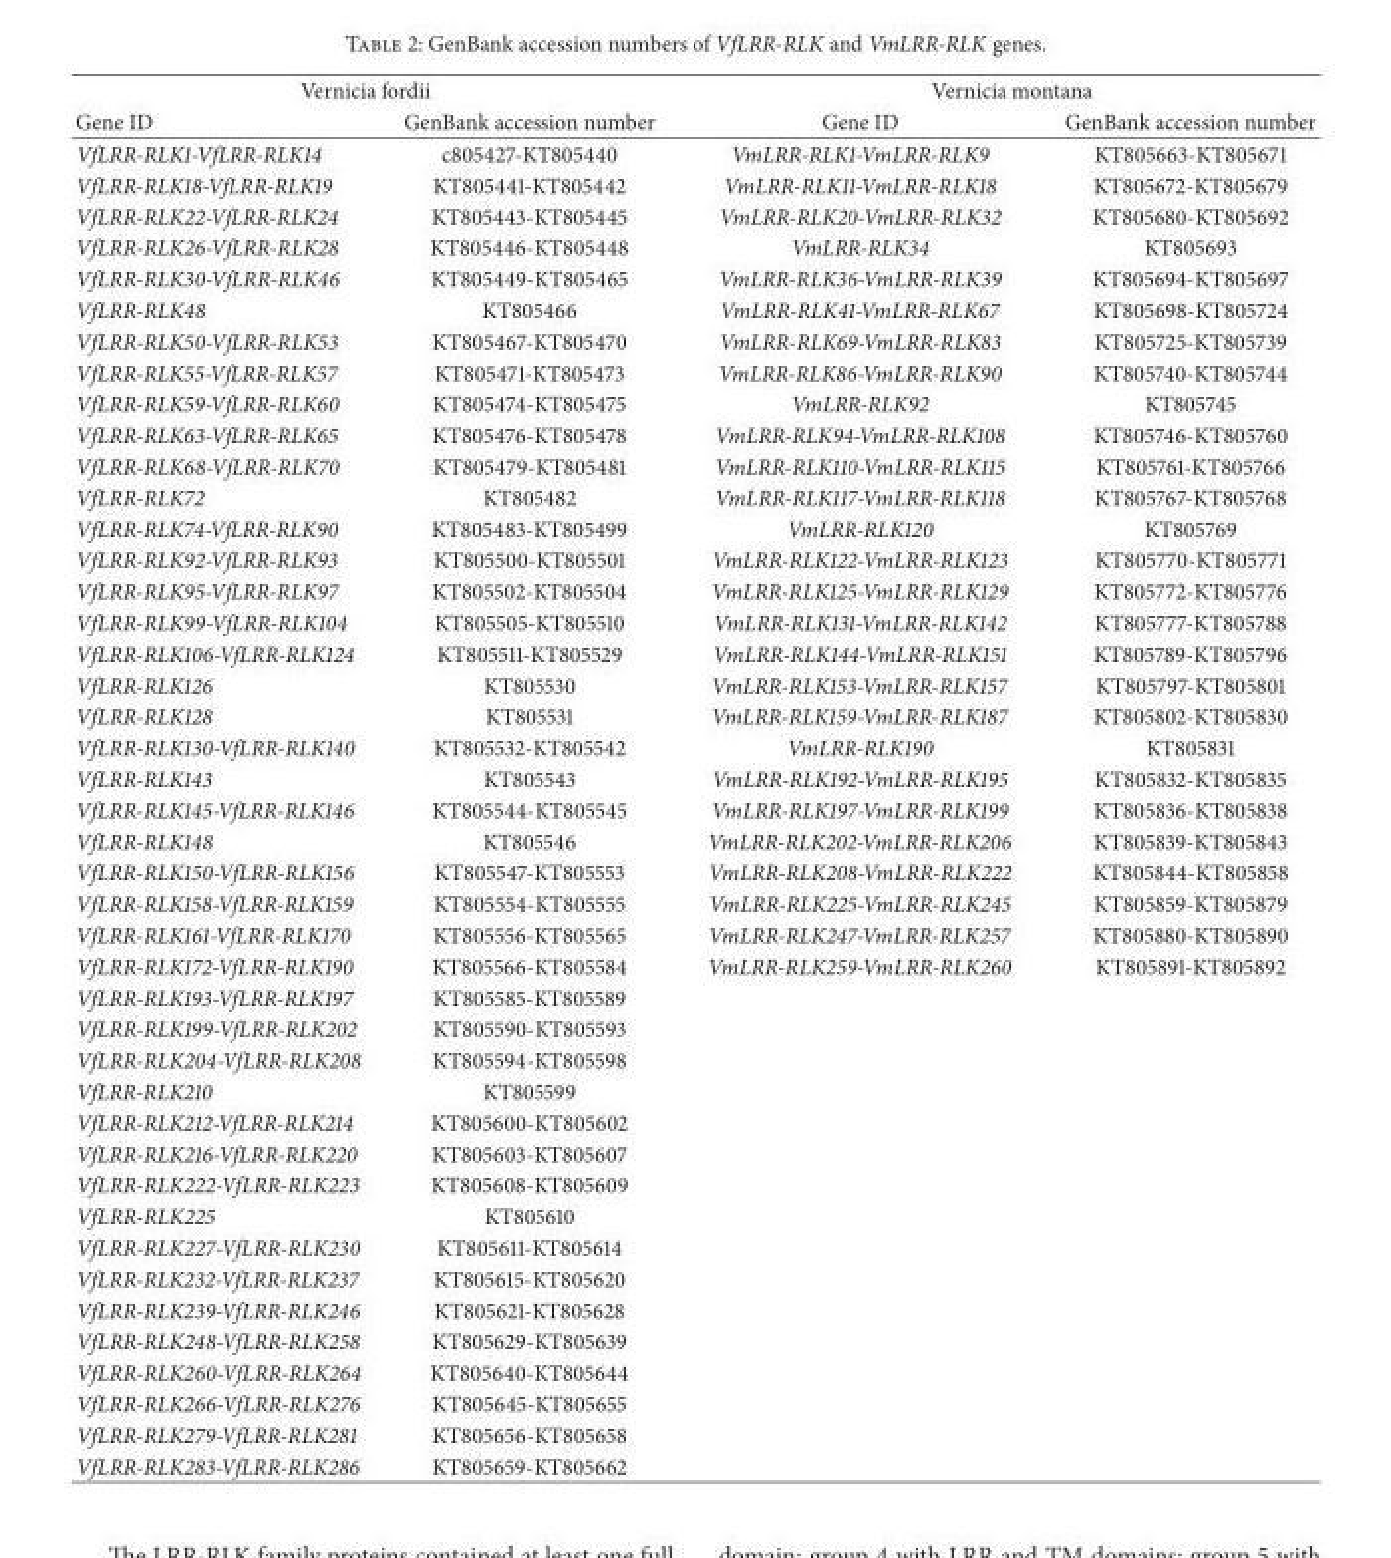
<table><thead><tr><td colspan="2">Vernicia fordii</td><td colspan="2">Vernicia montana</td></tr><tr><td>Gene ID</td><td>GenBank accession number</td><td>Gene ID</td><td>GenBank accession number</td></tr></thead><tbody><tr><td>VfLRR-RLK1-VfLRR-RLK14</td><td>c805427-KT805440</td><td>VmLRR-RLK1-VmLRR-RLK9</td><td>KT805663-KT805671</td></tr><tr><td>VfLRR-RLK18-VfLRR-RLK19</td><td>KT805441-KT805442</td><td>VmLRR-RLK11-VmLRR-RLK18</td><td>KT805672-KT805679</td></tr><tr><td>VfLRR-RLK22-VfLRR-RLK24</td><td>KT805443-KT805445</td><td>VmLRR-RLK20-VmLRR-RLK32</td><td>KT805680-KT805692</td></tr><tr><td>VfLRR-RLK26-VfLRR-RLK28</td><td>KT805446-KT805448</td><td>VmLRR-RLK34</td><td>KT805693</td></tr><tr><td>VfLRR-RLK30-VfLRR-RLK46</td><td>KT805449-KT805465</td><td>VmLRR-RLK36-VmLRR-RLK39</td><td>KT805694-KT805697</td></tr><tr><td>VfLRR-RLK48</td><td>KT805466</td><td>VmLRR-RLK41-VmLRR-RLK67</td><td>KT805698-KT805724</td></tr><tr><td>VfLRR-RLK50-VfLRR-RLK53</td><td>KT805467-KT805470</td><td>VmLRR-RLK69-VmLRR-RLK83</td><td>KT805725-KT805739</td></tr><tr><td>VfLRR-RLK55-VfLRR-RLK57</td><td>KT805471-KT805473</td><td>VmLRR-RLK86-VmLRR-RLK90</td><td>KT805740-KT805744</td></tr><tr><td>VfLRR-RLK59-VfLRR-RLK60</td><td>KT805474-KT805475</td><td>VmLRR-RLK92</td><td>KT805745</td></tr><tr><td>VfLRR-RLK63-VfLRR-RLK65</td><td>KT805476-KT805478</td><td>VmLRR-RLK94-VmLRR-RLK108</td><td>KT805746-KT805760</td></tr><tr><td>VfLRR-RLK68-VfLRR-RLK70</td><td>KT805479-KT805481</td><td>VmLRR-RLK110-VmLRR-RLK115</td><td>KT805761-KT805766</td></tr><tr><td>VfLRR-RLK72</td><td>KT805482</td><td>VmLRR-RLK117-VmLRR-RLK118</td><td>KT805767-KT805768</td></tr><tr><td>VfLRR-RLK74-VfLRR-RLK90</td><td>KT805483-KT805499</td><td>VmLRR-RLK120</td><td>KT805769</td></tr><tr><td>VfLRR-RLK92-VfLRR-RLK93</td><td>KT805500-KT805501</td><td>VmLRR-RLK122-VmLRR-RLK123</td><td>KT805770-KT805771</td></tr><tr><td>VfLRR-RLK95-VfLRR-RLK97</td><td>KT805502-KT805504</td><td>VmLRR-RLK125-VmLRR-RLK129</td><td>KT805772-KT805776</td></tr><tr><td>VfLRR-RLK99-VfLRR-RLK104</td><td>KT805505-KT805510</td><td>VmLRR-RLK131-VmLRR-RLK142</td><td>KT805777-KT805788</td></tr><tr><td>VfLRR-RLK106-VfLRR-RLK124</td><td>KT805511-KT805529</td><td>VmLRR-RLK144-VmLRR-RLK151</td><td>KT805789-KT805796</td></tr><tr><td>VfLRR-RLK126</td><td>KT805530</td><td>VmLRR-RLK153-VmLRR-RLK157</td><td>KT805797-KT805801</td></tr><tr><td>VfLRR-RLK128</td><td>KT805531</td><td>VmLRR-RLK159-VmLRR-RLK187</td><td>KT805802-KT805830</td></tr><tr><td>VfLRR-RLK130-VfLRR-RLK140</td><td>KT805532-KT805542</td><td>VmLRR-RLK190</td><td>KT805831</td></tr><tr><td>VfLRR-RLK143</td><td>KT805543</td><td>VmLRR-RLK192-VmLRR-RLK195</td><td>KT805832-KT805835</td></tr><tr><td>VfLRR-RLK145-VfLRR-RLK146</td><td>KT805544-KT805545</td><td>VmLRR-RLK197-VmLRR-RLK199</td><td>KT805836-KT805838</td></tr><tr><td>VfLRR-RLK148</td><td>KT805546</td><td>VmLRR-RLK202-VmLRR-RLK206</td><td>KT805839-KT805843</td></tr><tr><td>VfLRR-RLK150-VfLRR-RLK156</td><td>KT805547-KT805553</td><td>VmLRR-RLK208-VmLRR-RLK222</td><td>KT805844-KT805858</td></tr><tr><td>VfLRR-RLK158-VfLRR-RLK159</td><td>KT805554-KT805555</td><td>VmLRR-RLK225-VmLRR-RLK245</td><td>KT805859-KT805879</td></tr><tr><td>VfLRR-RLK161-VfLRR-RLK170</td><td>KT805556-KT805565</td><td>VmLRR-RLK247-VmLRR-RLK257</td><td>KT805880-KT805890</td></tr><tr><td>VfLRR-RLK172-VfLRR-RLK190</td><td>KT805566-KT805584</td><td>VmLRR-RLK259-VmLRR-RLK260</td><td>KT805891-KT805892</td></tr><tr><td>VfLRR-RLK193-VfLRR-RLK197</td><td>KT805585-KT805589</td><td></td><td></td></tr><tr><td>VfLRR-RLK199-VfLRR-RLK202</td><td>KT805590-KT805593</td><td></td><td></td></tr><tr><td>VfLRR-RLK204-VfLRR-RLK208</td><td>KT805594-KT805598</td><td></td><td></td></tr><tr><td>VfLRR-RLK210</td><td>KT805599</td><td></td><td></td></tr><tr><td>VfLRR-RLK212-VfLRR-RLK214</td><td>KT805600-KT805602</td><td></td><td></td></tr><tr><td>VfLRR-RLK216-VfLRR-RLK220</td><td>KT805603-KT805607</td><td></td><td></td></tr><tr><td>VfLRR-RLK222-VfLRR-RLK223</td><td>KT805608-KT805609</td><td></td><td></td></tr><tr><td>VfLRR-RLK225</td><td>KT805610</td><td></td><td></td></tr><tr><td>VfLRR-RLK227-VfLRR-RLK230</td><td>KT805611-KT805614</td><td></td><td></td></tr><tr><td>VfLRR-RLK232-VfLRR-RLK237</td><td>KT805615-KT805620</td><td></td><td></td></tr><tr><td>VfLRR-RLK239-VfLRR-RLK246</td><td>KT805621-KT805628</td><td></td><td></td></tr><tr><td>VfLRR-RLK248-VfLRR-RLK258</td><td>KT805629-KT805639</td><td></td><td></td></tr><tr><td>VfLRR-RLK260-VfLRR-RLK264</td><td>KT805640-KT805644</td><td></td><td></td></tr><tr><td>VfLRR-RLK266-VfLRR-RLK276</td><td>KT805645-KT805655</td><td></td><td></td></tr><tr><td>VfLRR-RLK279-VfLRR-RLK281</td><td>KT805656-KT805658</td><td></td><td></td></tr><tr><td>VfLRR-RLK283-VfLRR-RLK286</td><td>KT805659-KT805662</td><td></td><td></td></tr></tbody></table>